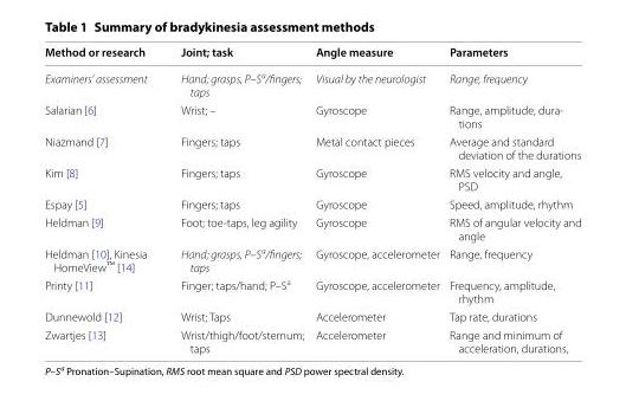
<table><thead><tr><td>Method or research</td><td>Joint; task</td><td>Angle measure</td><td>Parameters</td></tr></thead><tbody><tr><td>Examiners’ assessment</td><td>Hand; grasps, P–S<sup>a</sup>/fingers; taps</td><td>Visual by the neurologist</td><td>Range, frequency</td></tr><tr><td>Salarian [6]</td><td>Wrist; –</td><td>Gyroscope</td><td>Range, amplitude, dura- tions</td></tr><tr><td>Niazmand [7]</td><td>Fingers; taps</td><td>Metal contact pieces</td><td>Average and standard deviation of the durations</td></tr><tr><td>Kim [8]</td><td>Fingers; taps</td><td>Gyroscope</td><td>RMS velocity and angle, PSD</td></tr><tr><td>Espay [5]</td><td>Fingers; taps</td><td>Gyroscope</td><td>Speed, amplitude, rhythm</td></tr><tr><td>Heldman [9]</td><td>Foot; toe-taps, leg agility</td><td>Gyroscope</td><td>RMS of angular velocity and angle</td></tr><tr><td>Heldman [10], Kinesia HomeView™ [14]</td><td>Hand; grasps, P–S<sup>a</sup>/fingers; taps</td><td>Gyroscope, accelerometer</td><td>Range, frequency</td></tr><tr><td>Printy [11]</td><td>Finger; taps/hand; P–S<sup>a</sup></td><td>Gyroscope, accelerometer</td><td>Frequency, amplitude, rhythm</td></tr><tr><td>Dunnewold [12]</td><td>Wrist; Taps</td><td>Accelerometer</td><td>Tap rate, durations</td></tr><tr><td>Zwartjes [13]</td><td>Wrist/thigh/foot/sternum; taps</td><td>Accelerometer</td><td>Range and minimum of acceleration, durations,</td></tr></tbody></table>